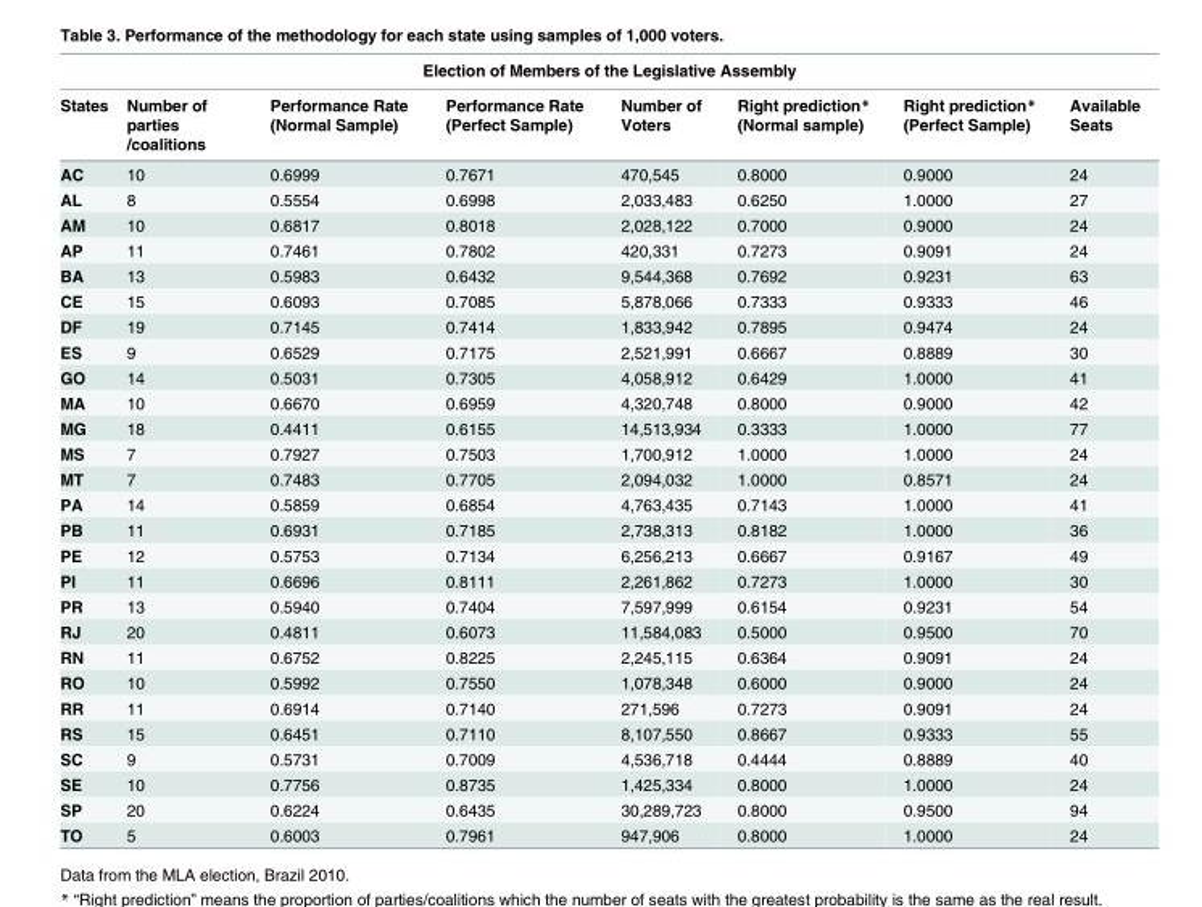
<table><thead><tr><td colspan="8">Election of Members of the Legislative Assembly</td></tr><tr><td>States</td><td>Number of parties /coalitions</td><td>Performance Rate (Normal Sample)</td><td>Performance Rate (Perfect Sample)</td><td>Number of Voters</td><td>Right prediction* (Normal sample)</td><td>Right prediction* (Perfect Sample)</td><td>Available Seats</td></tr></thead><tbody><tr><td>AC</td><td>10</td><td>0.6999</td><td>0.7671</td><td>470,545</td><td>0.8000</td><td>0.9000</td><td>24</td></tr><tr><td>AL</td><td>8</td><td>0.5554</td><td>0.6998</td><td>2,033,483</td><td>0.6250</td><td>1.0000</td><td>27</td></tr><tr><td>AM</td><td>10</td><td>0.6817</td><td>0.8018</td><td>2,028,122</td><td>0.7000</td><td>0.9000</td><td>24</td></tr><tr><td>AP</td><td>11</td><td>0.7461</td><td>0.7802</td><td>420,331</td><td>0.7273</td><td>0.9091</td><td>24</td></tr><tr><td>BA</td><td>13</td><td>0.5983</td><td>0.6432</td><td>9,544,368</td><td>0.7692</td><td>0.9231</td><td>63</td></tr><tr><td>CE</td><td>15</td><td>0.6093</td><td>0.7085</td><td>5,878,066</td><td>0.7333</td><td>0.9333</td><td>46</td></tr><tr><td>DF</td><td>19</td><td>0.7145</td><td>0.7414</td><td>1,833,942</td><td>0.7895</td><td>0.9474</td><td>24</td></tr><tr><td>ES</td><td>9</td><td>0.6529</td><td>0.7175</td><td>2,521,991</td><td>0.6667</td><td>0.8889</td><td>30</td></tr><tr><td>GO</td><td>14</td><td>0.5031</td><td>0.7305</td><td>4,058,912</td><td>0.6429</td><td>1.0000</td><td>41</td></tr><tr><td>MA</td><td>10</td><td>0.6670</td><td>0.6959</td><td>4,320,748</td><td>0.8000</td><td>0.9000</td><td>42</td></tr><tr><td>MG</td><td>18</td><td>0.4411</td><td>0.6155</td><td>14,513,934</td><td>0.3333</td><td>1.0000</td><td>77</td></tr><tr><td>MS</td><td>7</td><td>0.7927</td><td>0.7503</td><td>1,700,912</td><td>1.0000</td><td>1.0000</td><td>24</td></tr><tr><td>MT</td><td>7</td><td>0.7483</td><td>0.7705</td><td>2,094,032</td><td>1.0000</td><td>0.8571</td><td>24</td></tr><tr><td>PA</td><td>14</td><td>0.5859</td><td>0.6854</td><td>4,763,435</td><td>0.7143</td><td>1.0000</td><td>41</td></tr><tr><td>PB</td><td>11</td><td>0.6931</td><td>0.7185</td><td>2,738,313</td><td>0.8182</td><td>1.0000</td><td>36</td></tr><tr><td>PE</td><td>12</td><td>0.5753</td><td>0.7134</td><td>6,256,213</td><td>0.6667</td><td>0.9167</td><td>49</td></tr><tr><td>PI</td><td>11</td><td>0.6696</td><td>0.8111</td><td>2,261,862</td><td>0.7273</td><td>1.0000</td><td>30</td></tr><tr><td>PR</td><td>13</td><td>0.5940</td><td>0.7404</td><td>7,597,999</td><td>0.6154</td><td>0.9231</td><td>54</td></tr><tr><td>RJ</td><td>20</td><td>0.4811</td><td>0.6073</td><td>11,584,083</td><td>0.5000</td><td>0.9500</td><td>70</td></tr><tr><td>RN</td><td>11</td><td>0.6752</td><td>0.8225</td><td>2,245,115</td><td>0.6364</td><td>0.9091</td><td>24</td></tr><tr><td>RO</td><td>10</td><td>0.5992</td><td>0.7550</td><td>1,078,348</td><td>0.6000</td><td>0.9000</td><td>24</td></tr><tr><td>RR</td><td>11</td><td>0.6914</td><td>0.7140</td><td>271,596</td><td>0.7273</td><td>0.9091</td><td>24</td></tr><tr><td>RS</td><td>15</td><td>0.6451</td><td>0.7110</td><td>8,107,550</td><td>0.8667</td><td>0.9333</td><td>55</td></tr><tr><td>SC</td><td>9</td><td>0.5731</td><td>0.7009</td><td>4,536,718</td><td>0.4444</td><td>0.8889</td><td>40</td></tr><tr><td>SE</td><td>10</td><td>0.7756</td><td>0.8735</td><td>1,425,334</td><td>0.8000</td><td>1.0000</td><td>24</td></tr><tr><td>SP</td><td>20</td><td>0.6224</td><td>0.6435</td><td>30,289,723</td><td>0.8000</td><td>0.9500</td><td>94</td></tr><tr><td>TO</td><td>5</td><td>0.6003</td><td>0.7961</td><td>947,906</td><td>0.8000</td><td>1.0000</td><td>24</td></tr></tbody></table>